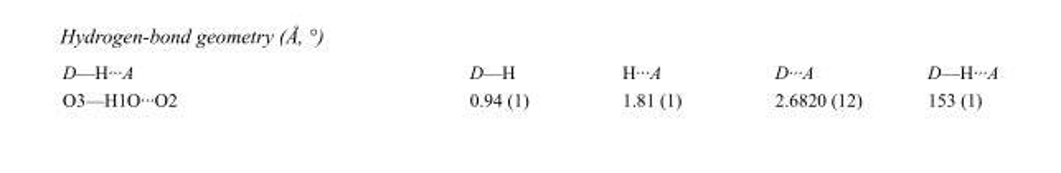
<table><tbody><tr><td>D—H···A</td><td>D—H</td><td>H···A</td><td>D···A</td><td>D—H···A</td></tr><tr><td>O3—H1O···O2</td><td>0.94 (1)</td><td>1.81 (1)</td><td>2.6820 (12)</td><td>153 (1)</td></tr></tbody></table>